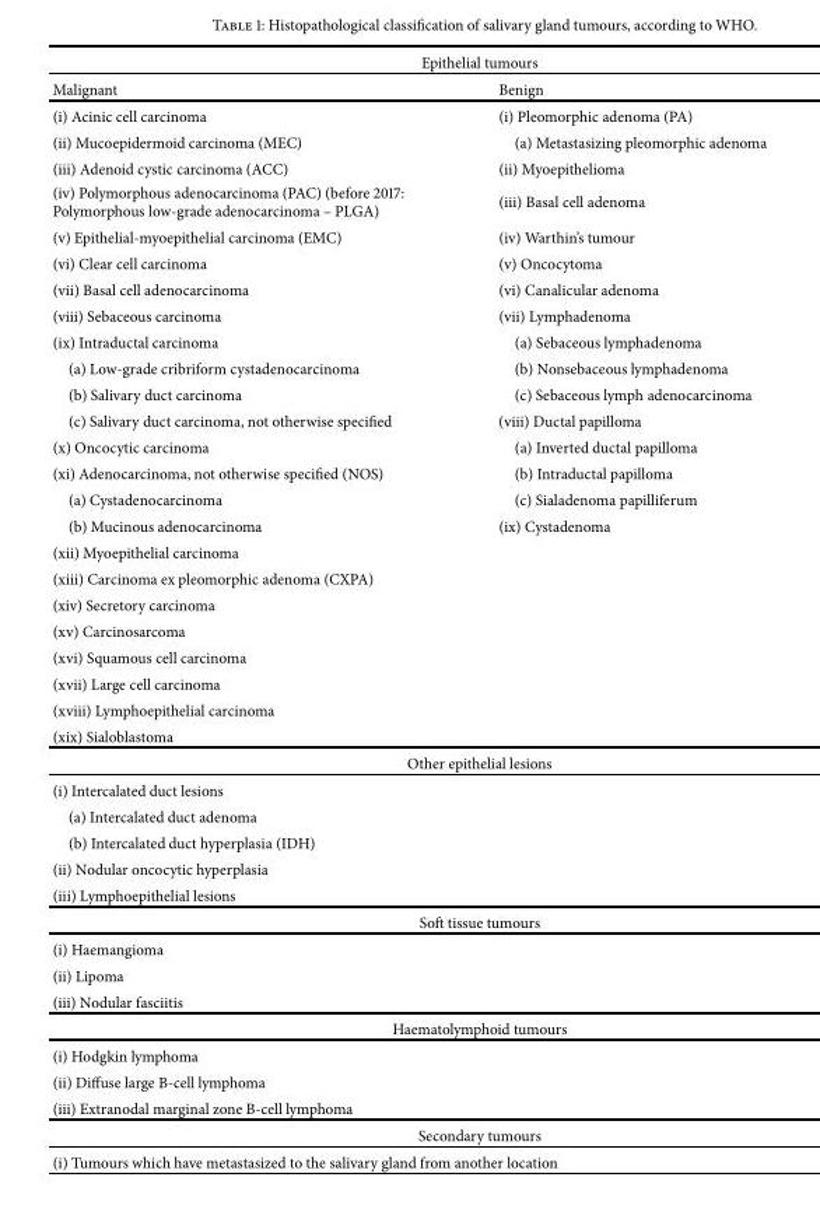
<table><thead><tr><td colspan="2">Epithelial tumours</td></tr><tr><td>Malignant</td><td>Benign</td></tr></thead><tbody><tr><td>(i) Acinic cell carcinoma</td><td>(i) Pleomorphic adenoma (PA)</td></tr><tr><td>(ii) Mucoepidermoid carcinoma (MEC)</td><td>(a) Metastasizing pleomorphic adenoma</td></tr><tr><td>(iii) Adenoid cystic carcinoma (ACC)</td><td>(ii) Myoepithelioma</td></tr><tr><td>(iv) Polymorphous adenocarcinoma (PAC) (before 2017: Polymorphous low-grade adenocarcinoma – PLGA)</td><td>(iii) Basal cell adenoma</td></tr><tr><td>(v) Epithelial-myoepithelial carcinoma (EMC)</td><td>(iv) Warthin’s tumour</td></tr><tr><td>(vi) Clear cell carcinoma</td><td>(v) Oncocytoma</td></tr><tr><td>(vii) Basal cell adenocarcinoma</td><td>(vi) Canalicular adenoma</td></tr><tr><td>(viii) Sebaceous carcinoma</td><td>(vii) Lymphadenoma</td></tr><tr><td>(ix) Intraductal carcinoma</td><td>(a) Sebaceous lymphadenoma</td></tr><tr><td>(a) Low-grade cribriform cystadenocarcinoma</td><td>(b) Nonsebaceous lymphadenoma</td></tr><tr><td>(b) Salivary duct carcinoma</td><td>(c) Sebaceous lymph adenocarcinoma</td></tr><tr><td>(c) Salivary duct carcinoma, not otherwise specified</td><td>(viii) Ductal papilloma</td></tr><tr><td>(x) Oncocytic carcinoma</td><td>(a) Inverted ductal papilloma</td></tr><tr><td>(xi) Adenocarcinoma, not otherwise specified (NOS)</td><td>(b) Intraductal papilloma</td></tr><tr><td>(a) Cystadenocarcinoma</td><td>(c) Sialadenoma papilliferum</td></tr><tr><td>(b) Mucinous adenocarcinoma</td><td>(ix) Cystadenoma</td></tr><tr><td colspan="2">(xii) Myoepithelial carcinoma</td></tr><tr><td colspan="2">(xiii) Carcinoma ex pleomorphic adenoma (CXPA)</td></tr><tr><td colspan="2">(xiv) Secretory carcinoma</td></tr><tr><td colspan="2">(xv) Carcinosarcoma</td></tr><tr><td colspan="2">(xvi) Squamous cell carcinoma</td></tr><tr><td colspan="2">(xvii) Large cell carcinoma</td></tr><tr><td colspan="2">(xviii) Lymphoepithelial carcinoma</td></tr><tr><td colspan="2">(xix) Sialoblastoma</td></tr><tr><td colspan="2">Other epithelial lesions</td></tr><tr><td colspan="2">(i) Intercalated duct lesions</td></tr><tr><td colspan="2">(a) Intercalated duct adenoma</td></tr><tr><td colspan="2">(b) Intercalated duct hyperplasia (IDH)</td></tr><tr><td colspan="2">(ii) Nodular oncocytic hyperplasia</td></tr><tr><td colspan="2">(iii) Lymphoepithelial lesions</td></tr><tr><td colspan="2">Soft tissue tumours</td></tr><tr><td colspan="2">(i) Haemangioma</td></tr><tr><td colspan="2">(ii) Lipoma</td></tr><tr><td colspan="2">(iii) Nodular fasciitis</td></tr><tr><td colspan="2">Haematolymphoid tumours</td></tr><tr><td colspan="2">(i) Hodgkin lymphoma</td></tr><tr><td colspan="2">(ii) Diffuse large B-cell lymphoma</td></tr><tr><td colspan="2">(iii) Extranodal marginal zone B-cell lymphoma</td></tr><tr><td colspan="2">Secondary tumours</td></tr><tr><td colspan="2">(i) Tumours which have metastasized to the salivary gland from another location</td></tr></tbody></table>